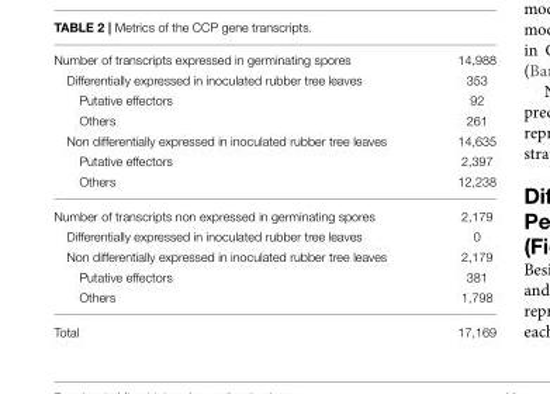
<table><tbody><tr><td>Number of transcripts expressed in germinating spores</td><td>14,988</td></tr><tr><td>Differentially expressed in inoculated rubber tree leaves</td><td>353</td></tr><tr><td>Putative effectors</td><td>92</td></tr><tr><td>Others</td><td>261</td></tr><tr><td>Non differentially expressed in inoculated rubber tree leaves</td><td>14,635</td></tr><tr><td>Putative effectors</td><td>2,397</td></tr><tr><td>Others</td><td>12,238</td></tr><tr><td>Number of transcripts non expressed in germinating spores</td><td>2,179</td></tr><tr><td>Differentially expressed in inoculated rubber tree leaves</td><td>0</td></tr><tr><td>Non differentially expressed in inoculated rubber tree leaves</td><td>2,179</td></tr><tr><td>Putative effectors</td><td>381</td></tr><tr><td>Others</td><td>1,798</td></tr><tr><td>Total</td><td>17,169</td></tr></tbody></table>